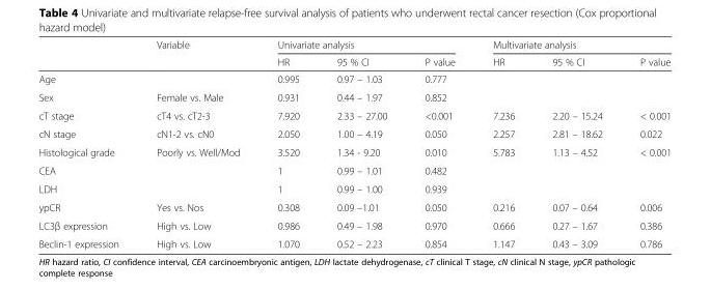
<table><thead><tr><td rowspan="2"></td><td rowspan="2">Variable</td><td colspan="3">Univariate analysis</td><td colspan="3">Multivariate analysis</td></tr><tr><td>HR</td><td>95 % CI</td><td>P value</td><td>HR</td><td>95 % CI</td><td>P value</td></tr></thead><tbody><tr><td>Age</td><td></td><td>0.995</td><td>0.97 – 1.03</td><td>0.777</td><td></td><td></td><td></td></tr><tr><td>Sex</td><td>Female vs. Male</td><td>0.931</td><td>0.44 – 1.97</td><td>0.852</td><td></td><td></td><td></td></tr><tr><td>cT stage</td><td>cT4 vs. cT2-3</td><td>7.920</td><td>2.33 – 27.00</td><td>&lt;0.001</td><td>7.236</td><td>2.20 – 15.24</td><td>&lt; 0.001</td></tr><tr><td>cN stage</td><td>cN1-2 vs. cN0</td><td>2.050</td><td>1.00 – 4.19</td><td>0.050</td><td>2.257</td><td>2.81 – 18.62</td><td>0.022</td></tr><tr><td>Histological grade</td><td>Poorly vs. Well/Mod</td><td>3.520</td><td>1.34 - 9.20</td><td>0.010</td><td>5.783</td><td>1.13 – 4.52</td><td>&lt; 0.001</td></tr><tr><td>CEA</td><td></td><td>1</td><td>0.99 – 1.01</td><td>0.482</td><td></td><td></td><td></td></tr><tr><td>LDH</td><td></td><td>1</td><td>0.99 – 1.00</td><td>0.939</td><td></td><td></td><td></td></tr><tr><td>ypCR</td><td>Yes vs. Nos</td><td>0.308</td><td>0.09 –1.01</td><td>0.050</td><td>0.216</td><td>0.07 – 0.64</td><td>0.006</td></tr><tr><td>LC3β expression</td><td>High vs. Low</td><td>0.986</td><td>0.49 – 1.98</td><td>0.970</td><td>0.666</td><td>0.27 – 1.67</td><td>0.386</td></tr><tr><td>Beclin-1 expression</td><td>High vs. Low</td><td>1.070</td><td>0.52 – 2.23</td><td>0.854</td><td>1.147</td><td>0.43 – 3.09</td><td>0.786</td></tr></tbody></table>